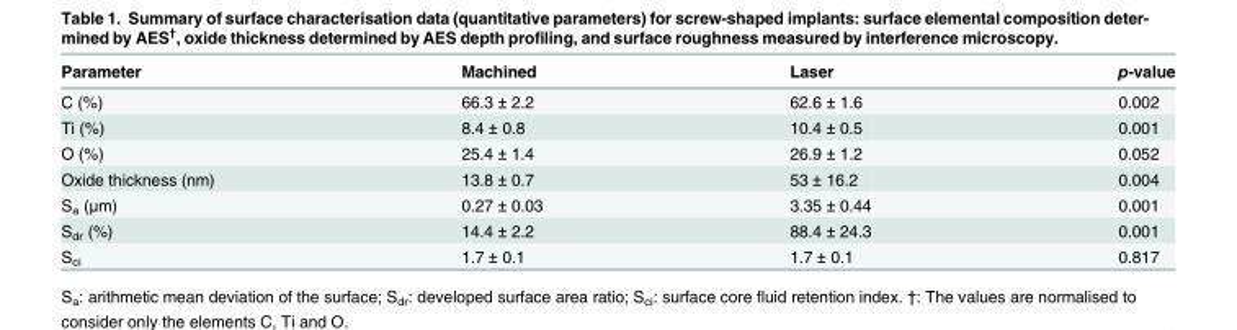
<table><thead><tr><td>Parameter</td><td>Machined</td><td>Laser</td><td>p-value</td></tr></thead><tbody><tr><td>C (%)</td><td>66.3 ± 2.2</td><td>62.6 ± 1.6</td><td>0.002</td></tr><tr><td>Ti (%)</td><td>8.4 ± 0.8</td><td>10.4 ± 0.5</td><td>0.001</td></tr><tr><td>O (%)</td><td>25.4 ± 1.4</td><td>26.9 ± 1.2</td><td>0.052</td></tr><tr><td>Oxide thickness (nm)</td><td>13.8 ± 0.7</td><td>53 ± 16.2</td><td>0.004</td></tr><tr><td>S<sub>a</sub> (μm)</td><td>0.27 ± 0.03</td><td>3.35 ± 0.44</td><td>0.001</td></tr><tr><td>S<sub>dr</sub> (%)</td><td>14.4 ± 2.2</td><td>88.4 ± 24.3</td><td>0.001</td></tr><tr><td>S<sub>ci</sub></td><td>1.7 ± 0.1</td><td>1.7 ± 0.1</td><td>0.817</td></tr></tbody></table>